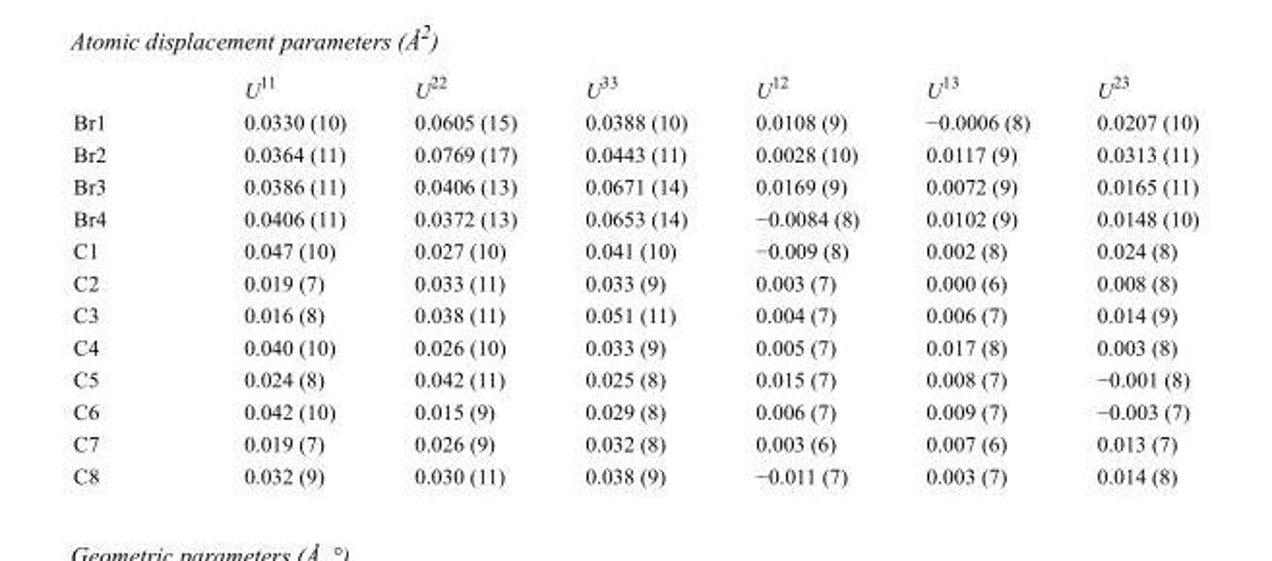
<table><thead><tr><td></td><td>U<sup>11</sup></td><td>U<sup>22</sup></td><td>U<sup>33</sup></td><td>U<sup>12</sup></td><td>U<sup>13</sup></td><td>U<sup>23</sup></td></tr></thead><tbody><tr><td>Br1</td><td>0.0330 (10)</td><td>0.0605 (15)</td><td>0.0388 (10)</td><td>0.0108 (9)</td><td>−0.0006 (8)</td><td>0.0207 (10)</td></tr><tr><td>Br2</td><td>0.0364 (11)</td><td>0.0769 (17)</td><td>0.0443 (11)</td><td>0.0028 (10)</td><td>0.0117 (9)</td><td>0.0313 (11)</td></tr><tr><td>Br3</td><td>0.0386 (11)</td><td>0.0406 (13)</td><td>0.0671 (14)</td><td>0.0169 (9)</td><td>0.0072 (9)</td><td>0.0165 (11)</td></tr><tr><td>Br4</td><td>0.0406 (11)</td><td>0.0372 (13)</td><td>0.0653 (14)</td><td>−0.0084 (8)</td><td>0.0102 (9)</td><td>0.0148 (10)</td></tr><tr><td>C1</td><td>0.047 (10)</td><td>0.027 (10)</td><td>0.041 (10)</td><td>−0.009 (8)</td><td>0.002 (8)</td><td>0.024 (8)</td></tr><tr><td>C2</td><td>0.019 (7)</td><td>0.033 (11)</td><td>0.033 (9)</td><td>0.003 (7)</td><td>0.000 (6)</td><td>0.008 (8)</td></tr><tr><td>C3</td><td>0.016 (8)</td><td>0.038 (11)</td><td>0.051 (11)</td><td>0.004 (7)</td><td>0.006 (7)</td><td>0.014 (9)</td></tr><tr><td>C4</td><td>0.040 (10)</td><td>0.026 (10)</td><td>0.033 (9)</td><td>0.005 (7)</td><td>0.017 (8)</td><td>0.003 (8)</td></tr><tr><td>C5</td><td>0.024 (8)</td><td>0.042 (11)</td><td>0.025 (8)</td><td>0.015 (7)</td><td>0.008 (7)</td><td>−0.001 (8)</td></tr><tr><td>C6</td><td>0.042 (10)</td><td>0.015 (9)</td><td>0.029 (8)</td><td>0.006 (7)</td><td>0.009 (7)</td><td>−0.003 (7)</td></tr><tr><td>C7</td><td>0.019 (7)</td><td>0.026 (9)</td><td>0.032 (8)</td><td>0.003 (6)</td><td>0.007 (6)</td><td>0.013 (7)</td></tr><tr><td>C8</td><td>0.032 (9)</td><td>0.030 (11)</td><td>0.038 (9)</td><td>−0.011 (7)</td><td>0.003 (7)</td><td>0.014 (8)</td></tr></tbody></table>